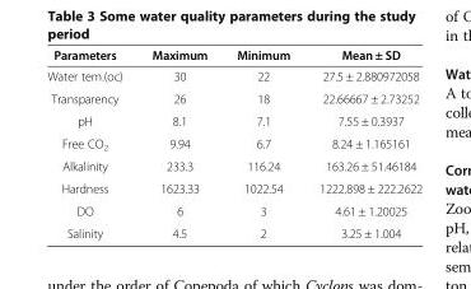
<table><thead><tr><td>Parameters</td><td>Maximum</td><td>Minimum</td><td>Mean ± SD</td></tr></thead><tbody><tr><td>Water tem.(oc)</td><td>30</td><td>22</td><td>27.5 ± 2.880972058</td></tr><tr><td>Transparency</td><td>26</td><td>18</td><td>22.66667 ± 2.73252</td></tr><tr><td>pH</td><td>8.1</td><td>7.1</td><td>7.55 ± 0.3937</td></tr><tr><td>Free CO<sub>2</sub></td><td>9.94</td><td>6.7</td><td>8.24 ± 1.165161</td></tr><tr><td>Alkalinity</td><td>233.3</td><td>116.24</td><td>163.26 ± 51.46184</td></tr><tr><td>Hardness</td><td>1623.33</td><td>1022.54</td><td>1222.898 ± 222.2622</td></tr><tr><td>DO</td><td>6</td><td>3</td><td>4.61 ± 1.20025</td></tr><tr><td>Salinity</td><td>4.5</td><td>2</td><td>3.25 ± 1.004</td></tr></tbody></table>